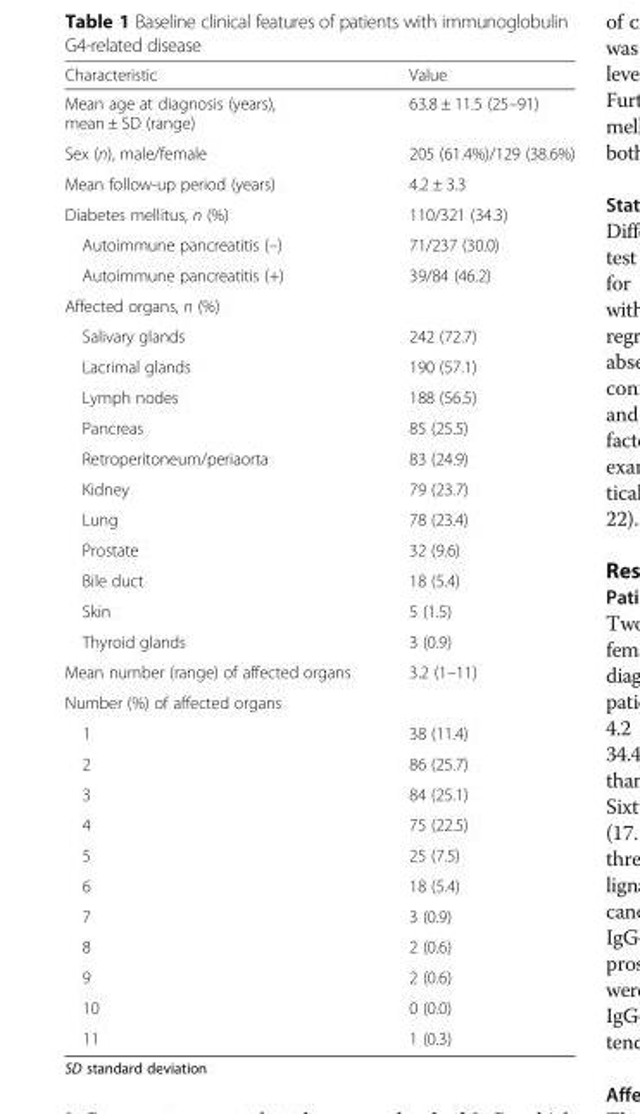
<table><thead><tr><td>Characteristic</td><td>Value</td></tr></thead><tbody><tr><td>Mean age at diagnosis (years), mean ± SD (range)</td><td>63.8 ± 11.5 (25–91)</td></tr><tr><td>Sex (n), male/female</td><td>205 (61.4%)/129 (38.6%)</td></tr><tr><td>Mean follow-up period (years)</td><td>4.2 ± 3.3</td></tr><tr><td>Diabetes mellitus, n (%)</td><td>110/321 (34.3)</td></tr><tr><td>Autoimmune pancreatitis (–)</td><td>71/237 (30.0)</td></tr><tr><td>Autoimmune pancreatitis (+)</td><td>39/84 (46.2)</td></tr><tr><td colspan="2">Affected organs, n (%)</td></tr><tr><td>Salivary glands</td><td>242 (72.7)</td></tr><tr><td>Lacrimal glands</td><td>190 (57.1)</td></tr><tr><td>Lymph nodes</td><td>188 (56.5)</td></tr><tr><td>Pancreas</td><td>85 (25.5)</td></tr><tr><td>Retroperitoneum/periaorta</td><td>83 (24.9)</td></tr><tr><td>Kidney</td><td>79 (23.7)</td></tr><tr><td>Lung</td><td>78 (23.4)</td></tr><tr><td>Prostate</td><td>32 (9.6)</td></tr><tr><td>Bile duct</td><td>18 (5.4)</td></tr><tr><td>Skin</td><td>5 (1.5)</td></tr><tr><td>Thyroid glands</td><td>3 (0.9)</td></tr><tr><td>Mean number (range) of affected organs</td><td>3.2 (1–11)</td></tr><tr><td colspan="2">Number (%) of affected organs</td></tr><tr><td>1</td><td>38 (11.4)</td></tr><tr><td>2</td><td>86 (25.7)</td></tr><tr><td>3</td><td>84 (25.1)</td></tr><tr><td>4</td><td>75 (22.5)</td></tr><tr><td>5</td><td>25 (7.5)</td></tr><tr><td>6</td><td>18 (5.4)</td></tr><tr><td>7</td><td>3 (0.9)</td></tr><tr><td>8</td><td>2 (0.6)</td></tr><tr><td>9</td><td>2 (0.6)</td></tr><tr><td>10</td><td>0 (0.0)</td></tr><tr><td>11</td><td>1 (0.3)</td></tr></tbody></table>